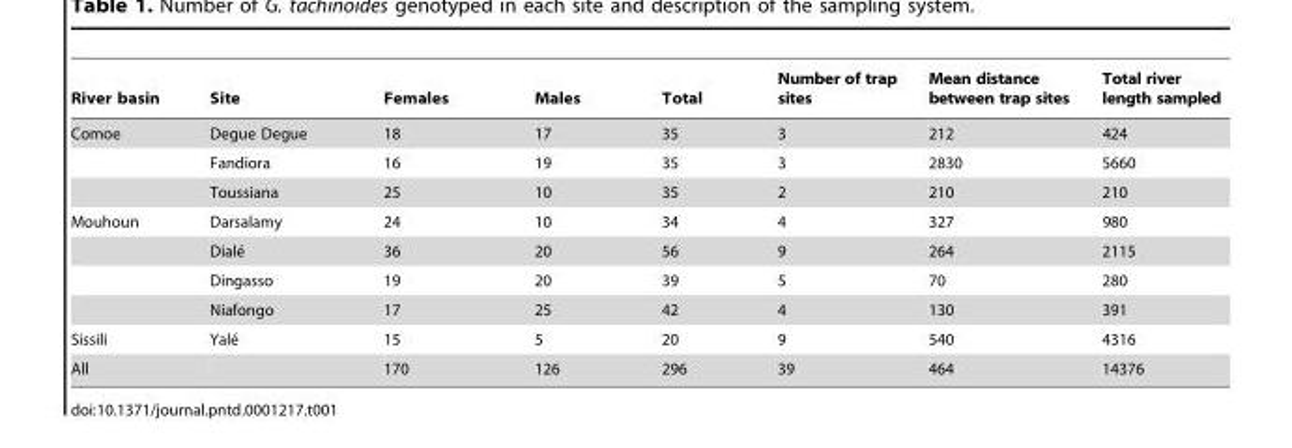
<table><thead><tr><td>River basin</td><td>Site</td><td>Females</td><td>Males</td><td>Total</td><td>Number of trap sites</td><td>Mean distance between trap sites</td><td>Total river length sampled</td></tr></thead><tbody><tr><td rowspan="3">Comoe</td><td>Degue Degue</td><td>18</td><td>17</td><td>35</td><td>3</td><td>212</td><td>424</td></tr><tr><td>Fandiora</td><td>16</td><td>19</td><td>35</td><td>3</td><td>2830</td><td>5660</td></tr><tr><td>Toussiana</td><td>25</td><td>10</td><td>35</td><td>2</td><td>210</td><td>210</td></tr><tr><td rowspan="4">Mouhoun</td><td>Darsalamy</td><td>24</td><td>10</td><td>34</td><td>4</td><td>327</td><td>980</td></tr><tr><td>Diale´</td><td>36</td><td>20</td><td>56</td><td>9</td><td>264</td><td>2115</td></tr><tr><td>Dingasso</td><td>19</td><td>20</td><td>39</td><td>5</td><td>70</td><td>280</td></tr><tr><td>Niafongo</td><td>17</td><td>25</td><td>42</td><td>4</td><td>130</td><td>391</td></tr><tr><td>Sissili</td><td>Yale´</td><td>15</td><td>5</td><td>20</td><td>9</td><td>540</td><td>4316</td></tr><tr><td>All</td><td></td><td>170</td><td>126</td><td>296</td><td>39</td><td>464</td><td>14376</td></tr></tbody></table>